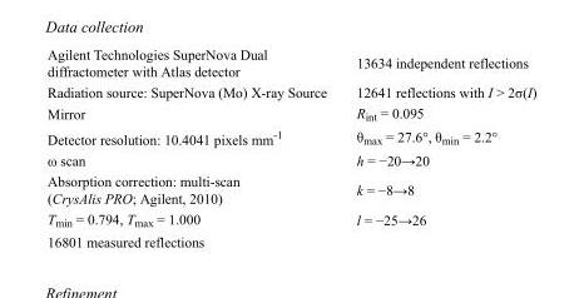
<table><tbody><tr><td>Agilent Technologies SuperNova Dual diffractometer with Atlas detector</td><td>13634 independent reflections</td></tr><tr><td>Radiation source: SuperNova (Mo) X-ray Source</td><td>12641 reflections with I &gt; 2σ(I)</td></tr><tr><td>Mirror</td><td>R<sub>int</sub> = 0.095</td></tr><tr><td>Detector resolution: 10.4041 pixels mm<sup>-1</sup></td><td>θ<sub>max</sub> = 27.6°, θ<sub>min</sub> = 2.2°</td></tr><tr><td>ω scan</td><td>h = −20→20</td></tr><tr><td>Absorption correction: multi-scan (CrysAlis PRO; Agilent, 2010)</td><td>k = −8→8</td></tr><tr><td>T<sub>min</sub> = 0.794, T<sub>max</sub> = 1.000</td><td>l = −25→26</td></tr><tr><td>16801 measured reflections</td><td></td></tr></tbody></table>